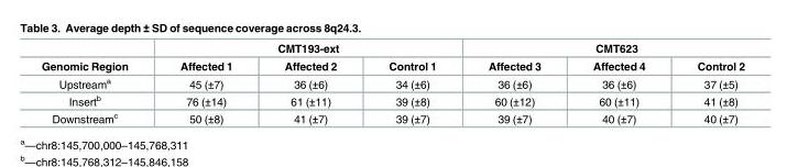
<table><thead><tr><td rowspan="2">Genomic Region</td><td colspan="3">CMT193-ext</td><td colspan="3">CMT623</td></tr><tr><td>Affected 1</td><td>Affected 2</td><td>Control 1</td><td>Affected 3</td><td>Affected 4</td><td>Control 2</td></tr></thead><tbody><tr><td>Upstream<sup>a</sup></td><td>45 (±7)</td><td>36 (±6)</td><td>34 (±6)</td><td>36 (±6)</td><td>36 (±6)</td><td>37 (±5)</td></tr><tr><td>Insert<sup>b</sup></td><td>76 (±14)</td><td>61 (±11)</td><td>39 (±8)</td><td>60 (±12)</td><td>60 (±11)</td><td>41 (±8)</td></tr><tr><td>Downstream<sup>c</sup></td><td>50 (±8)</td><td>41 (±7)</td><td>39 (±7)</td><td>39 (±7)</td><td>40 (±7)</td><td>40 (±7)</td></tr></tbody></table>